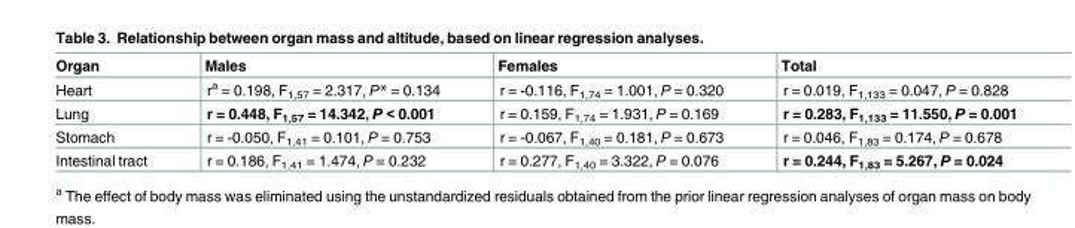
<table><thead><tr><td>Organ</td><td>Males</td><td>Females</td><td>Total</td></tr></thead><tbody><tr><td>Heart</td><td>r<sup>a</sup> = 0.198, F<sub>1,57</sub> = 2.317, P* = 0.134</td><td>r = -0.116, F<sub>1,74</sub> = 1.001, P = 0.320</td><td>r = 0.019, F<sub>1,133</sub> = 0.047, P = 0.828</td></tr><tr><td>Lung</td><td>r = 0.448, F<sub>1,57</sub> = 14.342, P &lt; 0.001</td><td>r = 0.159, F<sub>1,74</sub> = 1.931, P = 0.169</td><td>r = 0.283, F<sub>1,133</sub> = 11.550, P = 0.001</td></tr><tr><td>Stomach</td><td>r = -0.050, F<sub>1,41</sub> = 0.101, P = 0.753</td><td>r = -0.067, F<sub>1,40</sub> = 0.181, P = 0.673</td><td>r = 0.046, F<sub>1,83</sub> = 0.174, P = 0.678</td></tr><tr><td>Intestinal tract</td><td>r = 0.186, F<sub>1,41</sub> = 1.474, P = 0.232</td><td>r = 0.277, F<sub>1,40</sub> = 3.322, P = 0.076</td><td>r = 0.244, F<sub>1,83</sub> = 5.267, P = 0.024</td></tr></tbody></table>